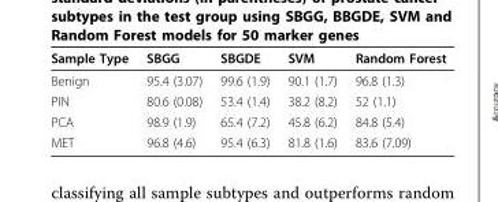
<table><thead><tr><td>Sample Type</td><td>SBGG</td><td>SBGDE</td><td>SVM</td><td>Random Forest</td></tr></thead><tbody><tr><td>Benign</td><td>95.4 (3.07)</td><td>99.6 (1.9)</td><td>90.1 (1.7)</td><td>96.8 (1.3)</td></tr><tr><td>PIN</td><td>80.6 (0.08)</td><td>53.4 (1.4)</td><td>38.2 (8.2)</td><td>52 (1.1)</td></tr><tr><td>PCA</td><td>98.9 (1.9)</td><td>65.4 (7.2)</td><td>45.8 (6.2)</td><td>84.8 (5.4)</td></tr><tr><td>MET</td><td>96.8 (4.6)</td><td>95.4 (6.3)</td><td>81.8 (1.6)</td><td>83.6 (7.09)</td></tr></tbody></table>